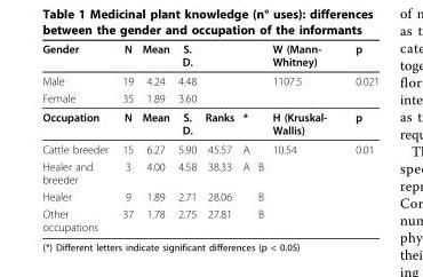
<table><thead><tr><td>Gender</td><td>N</td><td>Mean</td><td>S. D.</td><td></td><td></td><td></td><td>W (Mann- Whitney)</td><td>p</td></tr></thead><tbody><tr><td>Male</td><td>19</td><td>4.24</td><td>4.48</td><td></td><td></td><td></td><td>1107.5</td><td>0.021</td></tr><tr><td>Female</td><td>35</td><td>1.89</td><td>3.60</td><td></td><td></td><td></td><td></td><td></td></tr><tr><td>Occupation</td><td>N</td><td>Mean</td><td>S. D.</td><td>Ranks</td><td>*</td><td></td><td>H (Kruskal- Wallis)</td><td>p</td></tr><tr><td>Cattle breeder</td><td>15</td><td>6.27</td><td>5.90</td><td>45.57</td><td>A</td><td></td><td>10.54</td><td>0.01</td></tr><tr><td>Healer and breeder</td><td>3</td><td>4.00</td><td>4.58</td><td>38.33</td><td>A</td><td>B</td><td></td><td></td></tr><tr><td>Healer</td><td>9</td><td>1.89</td><td>2.71</td><td>28.06</td><td></td><td>B</td><td></td><td></td></tr><tr><td>Other occupations</td><td>37</td><td>1.78</td><td>2.75</td><td>27.81</td><td></td><td>B</td><td></td><td></td></tr></tbody></table>